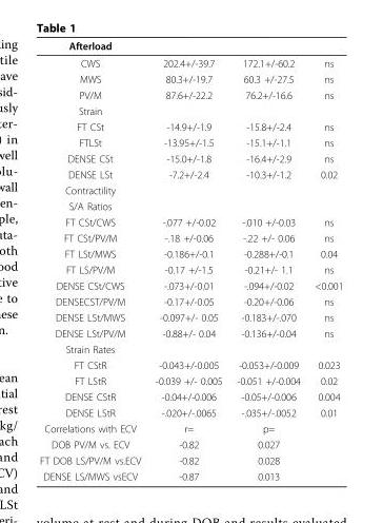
<table><thead><tr><td>Afterload</td><td></td><td></td><td></td></tr></thead><tbody><tr><td>CWS</td><td>202.4+/-39.7</td><td>172.1+/-60.2</td><td>ns</td></tr><tr><td>MWS</td><td>80.3+/-19.7</td><td>60.3 +/-27.5</td><td>ns</td></tr><tr><td>PV/M</td><td>87.6+/-22.2</td><td>76.2+/-16.6</td><td>ns</td></tr><tr><td colspan="4">Strain</td></tr><tr><td>FT CSt</td><td>-14.9+/-1.9</td><td>-15.8+/-2.4</td><td>ns</td></tr><tr><td>FTLSt</td><td>-13.95+/-1.5</td><td>-15.1+/-1.1</td><td>ns</td></tr><tr><td>DENSE CSt</td><td>-15.0+/-1.8</td><td>-16.4+/-2.9</td><td>ns</td></tr><tr><td>DENSE LSt</td><td>-7.2+/-2.4</td><td>-10.3+/-1.2</td><td>0.02</td></tr><tr><td colspan="4">Contractility</td></tr><tr><td colspan="4">S/A Ratios</td></tr><tr><td>FT CSt/CWS</td><td>-.077 +/-0.02</td><td>-.010 +/-0.03</td><td>ns</td></tr><tr><td>FT CSt/PV/M</td><td>-.18 +/-0.06</td><td>-.22 +/- 0.06</td><td>ns</td></tr><tr><td>FT LSt/MWS</td><td>-0.186+/-0.1</td><td>-0.288+/-0.1</td><td>0.04</td></tr><tr><td>FT LS/PV/M</td><td>-0.17 +/-1.5</td><td>-0.21+/- 1.1</td><td>ns</td></tr><tr><td>DENSE CSt/CWS</td><td>-.073+/-0.01</td><td>-.094+/-0.02</td><td>&lt;0.001</td></tr><tr><td>DENSECST/PV/M</td><td>-0.17+/-0.05</td><td>-0.20+/-0.06</td><td>ns</td></tr><tr><td>DENSE LSt/MWS</td><td>-0.097+/- 0.05</td><td>-0.183+/-.070</td><td>ns</td></tr><tr><td>DENSE LSt/PV/M</td><td>-0.88+/- 0.04</td><td>-0.136+/-0.04</td><td>ns</td></tr><tr><td colspan="4">Strain Rates</td></tr><tr><td>FT CStR</td><td>-0.043+/-0.005</td><td>-0.053+/-0.009</td><td>0.023</td></tr><tr><td>FT LStR</td><td>-0.039 +/- 0.005</td><td>-0.051 +/-0.004</td><td>0.02</td></tr><tr><td>DENSE CStR</td><td>-0.04+/-0.006</td><td>-0.05+/-0.006</td><td>0.004</td></tr><tr><td>DENSE LStR</td><td>-.020+/-.0065</td><td>-.035+/-.0052</td><td>0.01</td></tr><tr><td>Correlations with ECV</td><td>r=</td><td>p=</td><td></td></tr><tr><td>DOB PV/M vs. ECV</td><td>-0.82</td><td>0.027</td><td></td></tr><tr><td>FT DOB LS/PV/M vs.ECV</td><td>-0.82</td><td>0.028</td><td></td></tr><tr><td>DENSE LS/MWS vsECV</td><td>-0.87</td><td>0.013</td><td></td></tr></tbody></table>